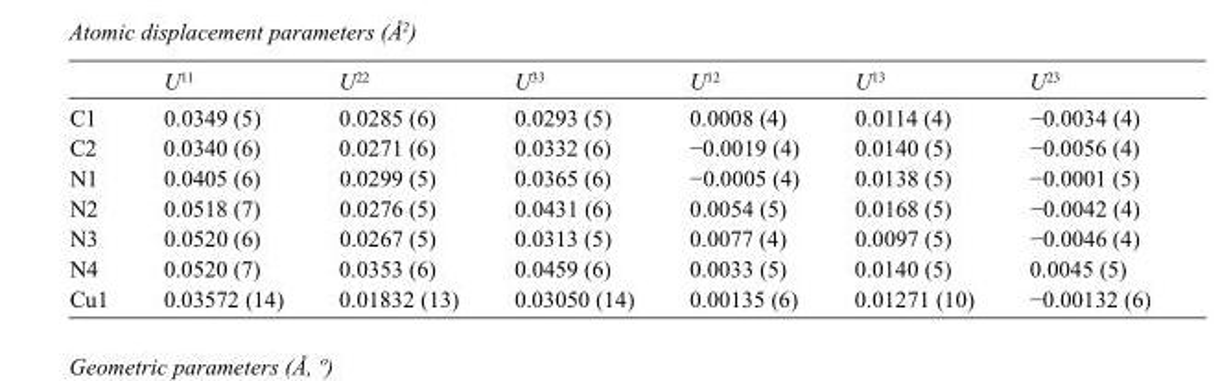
<table><thead><tr><td></td><td>U<sup>11</sup></td><td>U<sup>22</sup></td><td>U<sup>33</sup></td><td>U<sup>12</sup></td><td>U<sup>13</sup></td><td>U<sup>23</sup></td></tr></thead><tbody><tr><td>C1</td><td>0.0349 (5)</td><td>0.0285 (6)</td><td>0.0293 (5)</td><td>0.0008 (4)</td><td>0.0114 (4)</td><td>−0.0034 (4)</td></tr><tr><td>C2</td><td>0.0340 (6)</td><td>0.0271 (6)</td><td>0.0332 (6)</td><td>−0.0019 (4)</td><td>0.0140 (5)</td><td>−0.0056 (4)</td></tr><tr><td>N1</td><td>0.0405 (6)</td><td>0.0299 (5)</td><td>0.0365 (6)</td><td>−0.0005 (4)</td><td>0.0138 (5)</td><td>−0.0001 (5)</td></tr><tr><td>N2</td><td>0.0518 (7)</td><td>0.0276 (5)</td><td>0.0431 (6)</td><td>0.0054 (5)</td><td>0.0168 (5)</td><td>−0.0042 (4)</td></tr><tr><td>N3</td><td>0.0520 (6)</td><td>0.0267 (5)</td><td>0.0313 (5)</td><td>0.0077 (4)</td><td>0.0097 (5)</td><td>−0.0046 (4)</td></tr><tr><td>N4</td><td>0.0520 (7)</td><td>0.0353 (6)</td><td>0.0459 (6)</td><td>0.0033 (5)</td><td>0.0140 (5)</td><td>0.0045 (5)</td></tr><tr><td>Cu1</td><td>0.03572 (14)</td><td>0.01832 (13)</td><td>0.03050 (14)</td><td>0.00135 (6)</td><td>0.01271 (10)</td><td>−0.00132 (6)</td></tr></tbody></table>